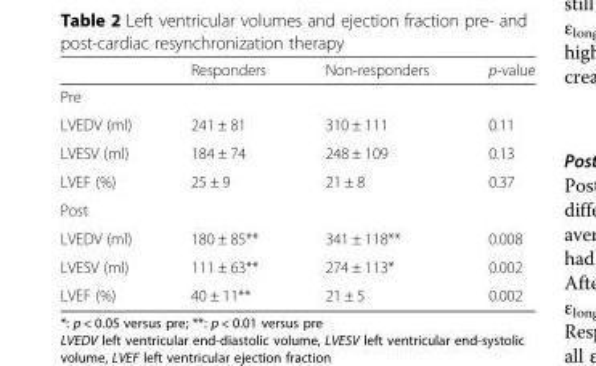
<table><thead><tr><td></td><td>Responders</td><td>Non-responders</td><td>p-value</td></tr></thead><tbody><tr><td colspan="4">Pre</td></tr><tr><td>LVEDV (ml)</td><td>241 ± 81</td><td>310 ± 111</td><td>0.11</td></tr><tr><td>LVESV (ml)</td><td>184 ± 74</td><td>248 ± 109</td><td>0.13</td></tr><tr><td>LVEF (%)</td><td>25 ± 9</td><td>21 ± 8</td><td>0.37</td></tr><tr><td colspan="4">Post</td></tr><tr><td>LVEDV (ml)</td><td>180 ± 85**</td><td>341 ± 118**</td><td>0.008</td></tr><tr><td>LVESV (ml)</td><td>111 ± 63**</td><td>274 ± 113*</td><td>0.002</td></tr><tr><td>LVEF (%)</td><td>40 ± 11**</td><td>21 ± 5</td><td>0.002</td></tr></tbody></table>